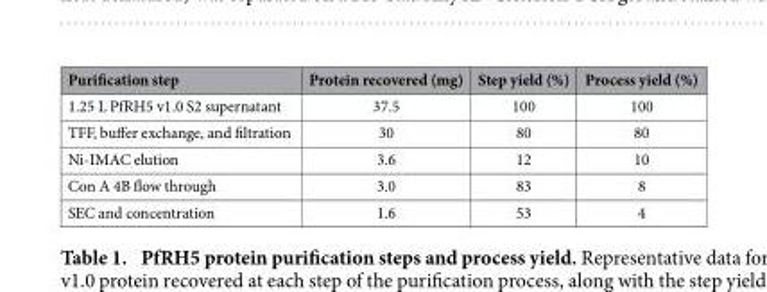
<table><thead><tr><td>Purification step</td><td>Protein recovered (mg)</td><td>Step yield (%)</td><td>Process yield (%)</td></tr></thead><tbody><tr><td>1.25 L PfRH5 v1.0 S2 supernatant</td><td>37.5</td><td>100</td><td>100</td></tr><tr><td>TFF, buffer exchange, and filtration</td><td>30</td><td>80</td><td>80</td></tr><tr><td>Ni-IMAC elution</td><td>3.6</td><td>12</td><td>10</td></tr><tr><td>Con A 4B flow through</td><td>3.0</td><td>83</td><td>8</td></tr><tr><td>SEC and concentration</td><td>1.6</td><td>53</td><td>4</td></tr></tbody></table>